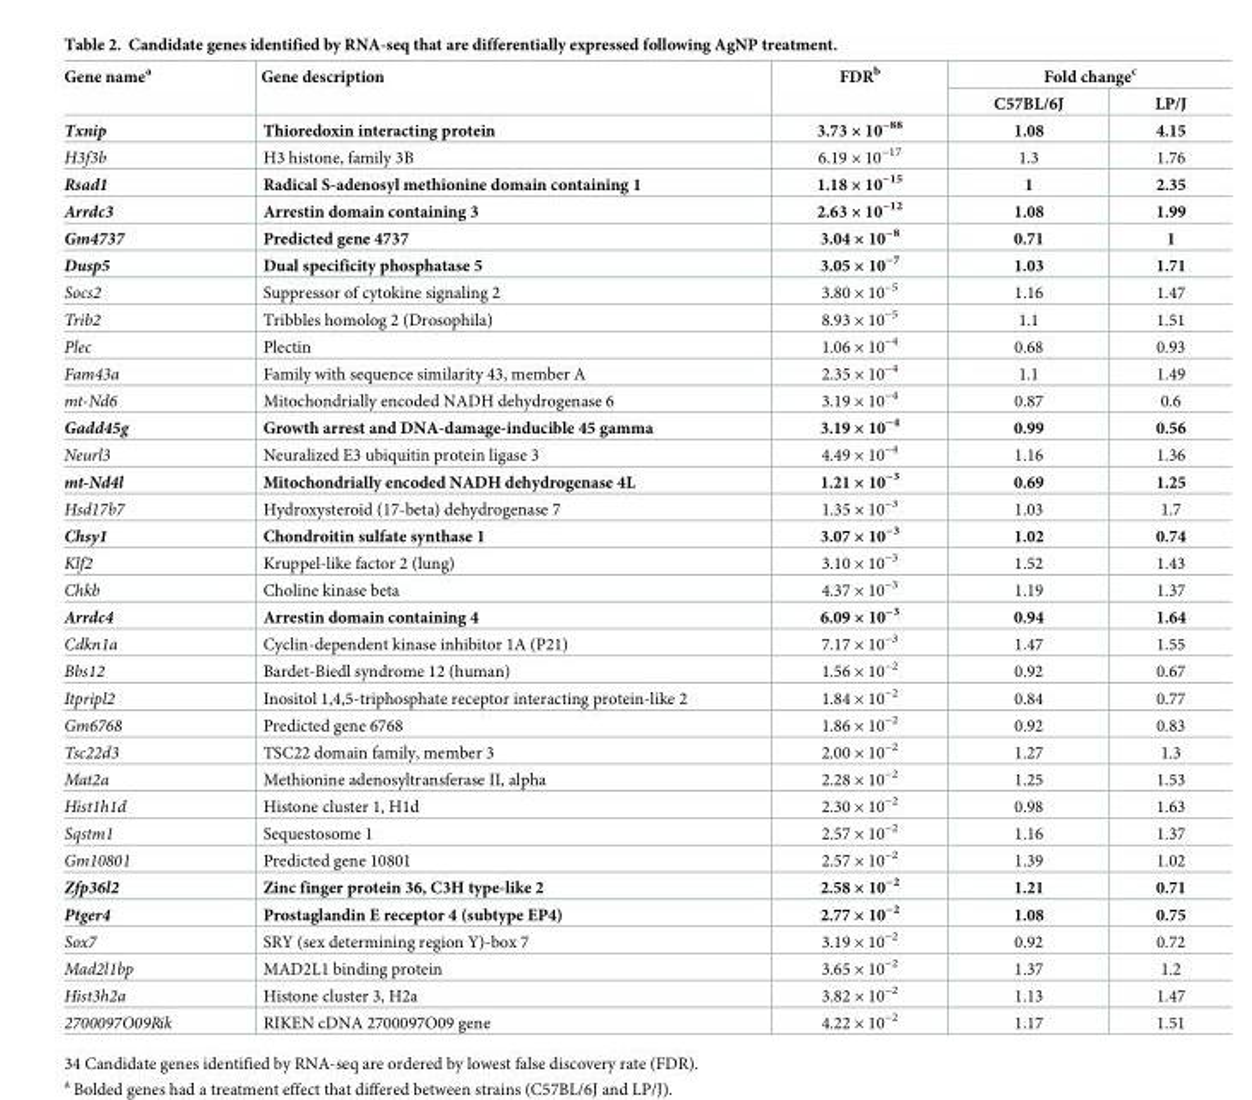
<table><thead><tr><td rowspan="2">Gene name<sup>a</sup></td><td rowspan="2">Gene description</td><td rowspan="2">FDR<sup>b</sup></td><td colspan="2">Fold change<sup>c</sup></td></tr><tr><td>C57BL/6J</td><td>LP/J</td></tr></thead><tbody><tr><td>Txnip</td><td>Thioredoxin interacting protein</td><td>3.73 × 10<sup>−88</sup></td><td>1.08</td><td>4.15</td></tr><tr><td>H3f3b</td><td>H3 histone, family 3B</td><td>6.19 × 10<sup>−17</sup></td><td>1.3</td><td>1.76</td></tr><tr><td>Rsad1</td><td>Radical S-adenosyl methionine domain containing 1</td><td>1.18 × 10<sup>−15</sup></td><td>1</td><td>2.35</td></tr><tr><td>Arrdc3</td><td>Arrestin domain containing 3</td><td>2.63 × 10<sup>−12</sup></td><td>1.08</td><td>1.99</td></tr><tr><td>Gm4737</td><td>Predicted gene 4737</td><td>3.04 × 10<sup>−8</sup></td><td>0.71</td><td>1</td></tr><tr><td>Dusp5</td><td>Dual specificity phosphatase 5</td><td>3.05 × 10<sup>−7</sup></td><td>1.03</td><td>1.71</td></tr><tr><td>Socs2</td><td>Suppressor of cytokine signaling 2</td><td>3.80 × 10<sup>−5</sup></td><td>1.16</td><td>1.47</td></tr><tr><td>Trib2</td><td>Tribbles homolog 2 (Drosophila)</td><td>8.93 × 10<sup>−5</sup></td><td>1.1</td><td>1.51</td></tr><tr><td>Plec</td><td>Plectin</td><td>1.06 × 10<sup>−4</sup></td><td>0.68</td><td>0.93</td></tr><tr><td>Fam43a</td><td>Family with sequence similarity 43, member A</td><td>2.35 × 10<sup>−4</sup></td><td>1.1</td><td>1.49</td></tr><tr><td>mt-Nd6</td><td>Mitochondrially encoded NADH dehydrogenase 6</td><td>3.19 × 10<sup>−4</sup></td><td>0.87</td><td>0.6</td></tr><tr><td>Gadd45g</td><td>Growth arrest and DNA-damage-inducible 45 gamma</td><td>3.19 × 10<sup>−4</sup></td><td>0.99</td><td>0.56</td></tr><tr><td>Neurl3</td><td>Neuralized E3 ubiquitin protein ligase 3</td><td>4.49 × 10<sup>−4</sup></td><td>1.16</td><td>1.36</td></tr><tr><td>mt-Nd4l</td><td>Mitochondrially encoded NADH dehydrogenase 4L</td><td>1.21 × 10<sup>−3</sup></td><td>0.69</td><td>1.25</td></tr><tr><td>Hsd17b7</td><td>Hydroxysteroid (17-beta) dehydrogenase 7</td><td>1.35 × 10<sup>−3</sup></td><td>1.03</td><td>1.7</td></tr><tr><td>Chsy1</td><td>Chondroitin sulfate synthase 1</td><td>3.07 × 10<sup>−3</sup></td><td>1.02</td><td>0.74</td></tr><tr><td>Klf2</td><td>Kruppel-like factor 2 (lung)</td><td>3.10 × 10<sup>−3</sup></td><td>1.52</td><td>1.43</td></tr><tr><td>Chkb</td><td>Choline kinase beta</td><td>4.37 × 10<sup>−3</sup></td><td>1.19</td><td>1.37</td></tr><tr><td>Arrdc4</td><td>Arrestin domain containing 4</td><td>6.09 × 10<sup>−3</sup></td><td>0.94</td><td>1.64</td></tr><tr><td>Cdkn1a</td><td>Cyclin-dependent kinase inhibitor 1A (P21)</td><td>7.17 × 10<sup>−3</sup></td><td>1.47</td><td>1.55</td></tr><tr><td>Bbs12</td><td>Bardet-Biedl syndrome 12 (human)</td><td>1.56 × 10<sup>−2</sup></td><td>0.92</td><td>0.67</td></tr><tr><td>Itpripl2</td><td>Inositol 1,4,5-triphosphate receptor interacting protein-like 2</td><td>1.84 × 10<sup>−2</sup></td><td>0.84</td><td>0.77</td></tr><tr><td>Gm6768</td><td>Predicted gene 6768</td><td>1.86 × 10<sup>−2</sup></td><td>0.92</td><td>0.83</td></tr><tr><td>Tsc22d3</td><td>TSC22 domain family, member 3</td><td>2.00 × 10<sup>−2</sup></td><td>1.27</td><td>1.3</td></tr><tr><td>Mat2a</td><td>Methionine adenosyltransferase II, alpha</td><td>2.28 × 10<sup>−2</sup></td><td>1.25</td><td>1.53</td></tr><tr><td>Hist1h1d</td><td>Histone cluster 1, H1d</td><td>2.30 × 10<sup>−2</sup></td><td>0.98</td><td>1.63</td></tr><tr><td>Sqstm1</td><td>Sequestosome 1</td><td>2.57 × 10<sup>−2</sup></td><td>1.16</td><td>1.37</td></tr><tr><td>Gm10801</td><td>Predicted gene 10801</td><td>2.57 × 10<sup>−2</sup></td><td>1.39</td><td>1.02</td></tr><tr><td>Zfp36l2</td><td>Zinc finger protein 36, C3H type-like 2</td><td>2.58 × 10<sup>−2</sup></td><td>1.21</td><td>0.71</td></tr><tr><td>Ptger4</td><td>Prostaglandin E receptor 4 (subtype EP4)</td><td>2.77 × 10<sup>−2</sup></td><td>1.08</td><td>0.75</td></tr><tr><td>Sox7</td><td>SRY (sex determining region Y)-box 7</td><td>3.19 × 10<sup>−2</sup></td><td>0.92</td><td>0.72</td></tr><tr><td>Mad2l1bp</td><td>MAD2L1 binding protein</td><td>3.65 × 10<sup>−2</sup></td><td>1.37</td><td>1.2</td></tr><tr><td>Hist3h2a</td><td>Histone cluster 3, H2a</td><td>3.82 × 10<sup>−2</sup></td><td>1.13</td><td>1.47</td></tr><tr><td>2700097O09Rik</td><td>RIKEN cDNA 2700097O09 gene</td><td>4.22 × 10<sup>−2</sup></td><td>1.17</td><td>1.51</td></tr></tbody></table>